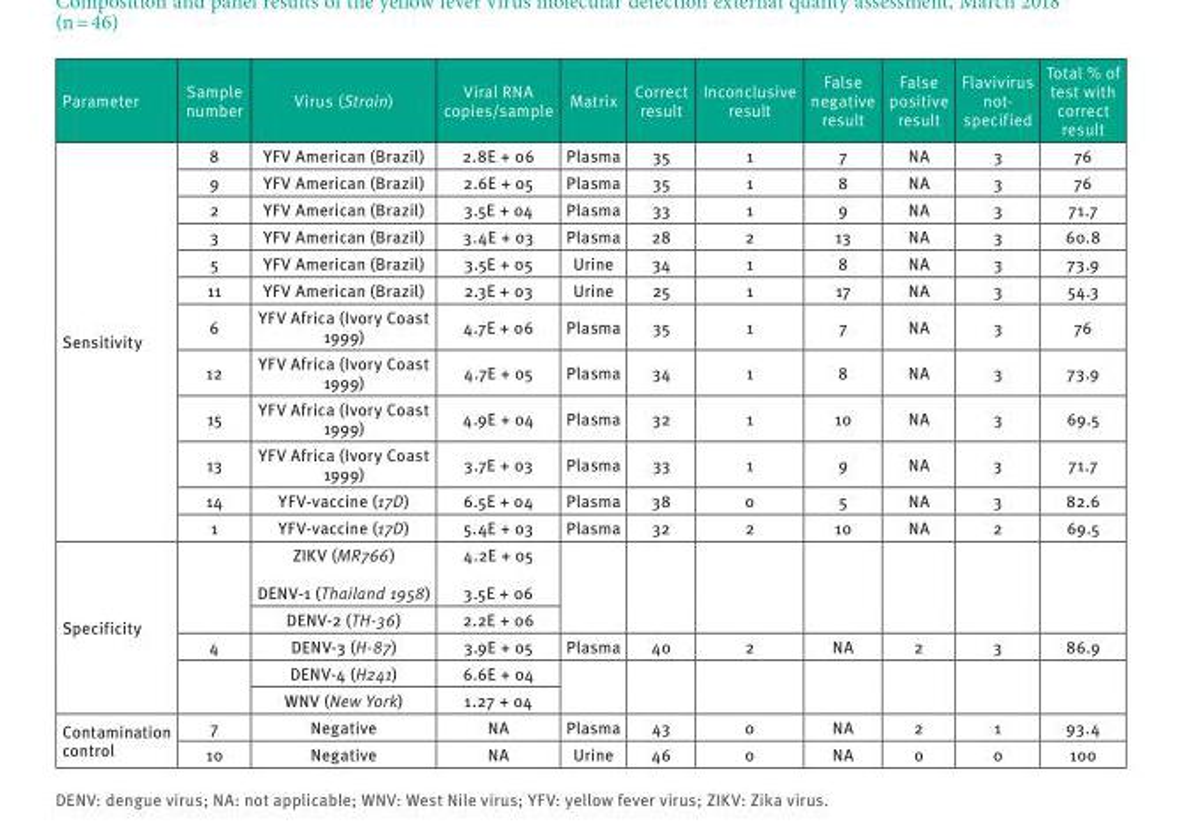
<table><thead><tr><td>Parameter</td><td>Sample number</td><td>Virus (Strain)</td><td>Viral RNA copies/sample</td><td>Matrix</td><td>Correct result</td><td>Inconclusive result</td><td>False negative result</td><td>False positive result</td><td>Flavivirus not- specified</td><td>Total % of test with correct result</td></tr></thead><tbody><tr><td rowspan="12">Sensitivity</td><td>8</td><td>YFV American (Brazil)</td><td>2.8E + 06</td><td>Plasma</td><td>35</td><td>1</td><td>7</td><td>NA</td><td>3</td><td>76</td></tr><tr><td>9</td><td>YFV American (Brazil)</td><td>2.6E + 05</td><td>Plasma</td><td>35</td><td>1</td><td>8</td><td>NA</td><td>3</td><td>76</td></tr><tr><td>2</td><td>YFV American (Brazil)</td><td>3.5E + 04</td><td>Plasma</td><td>33</td><td>1</td><td>9</td><td>NA</td><td>3</td><td>71.7</td></tr><tr><td>3</td><td>YFV American (Brazil)</td><td>3.4E + 03</td><td>Plasma</td><td>28</td><td>2</td><td>13</td><td>NA</td><td>3</td><td>60.8</td></tr><tr><td>5</td><td>YFV American (Brazil)</td><td>3.5E + 05</td><td>Urine</td><td>34</td><td>1</td><td>8</td><td>NA</td><td>3</td><td>73.9</td></tr><tr><td>11</td><td>YFV American (Brazil)</td><td>2.3E + 03</td><td>Urine</td><td>25</td><td>1</td><td>17</td><td>NA</td><td>3</td><td>54.3</td></tr><tr><td>6</td><td>YFV Africa (Ivory Coast 1999)</td><td>4.7E + 06</td><td>Plasma</td><td>35</td><td>1</td><td>7</td><td>NA</td><td>3</td><td>76</td></tr><tr><td>12</td><td>YFV Africa (Ivory Coast 1999)</td><td>4.7E + 05</td><td>Plasma</td><td>34</td><td>1</td><td>8</td><td>NA</td><td>3</td><td>73.9</td></tr><tr><td>15</td><td>YFV Africa (Ivory Coast 1999)</td><td>4.9E + 04</td><td>Plasma</td><td>32</td><td>1</td><td>10</td><td>NA</td><td>3</td><td>69.5</td></tr><tr><td>13</td><td>YFV Africa (Ivory Coast 1999)</td><td>3.7E + 03</td><td>Plasma</td><td>33</td><td>1</td><td>9</td><td>NA</td><td>3</td><td>71.7</td></tr><tr><td>14</td><td>YFV-vaccine (17D)</td><td>6.5E + 04</td><td>Plasma</td><td>38</td><td>0</td><td>5</td><td>NA</td><td>3</td><td>82.6</td></tr><tr><td>1</td><td>YFV-vaccine (17D)</td><td>5.4E + 03</td><td>Plasma</td><td>32</td><td>2</td><td>10</td><td>NA</td><td>2</td><td>69.5</td></tr><tr><td rowspan="5">Specificity</td><td rowspan="2"></td><td>ZIKV (MR766) DENV-1 (Thailand 1958)</td><td>4.2E + 05 3.5E + 06</td><td rowspan="2"></td><td rowspan="2"></td><td rowspan="2"></td><td rowspan="2"></td><td rowspan="2"></td><td rowspan="2"></td><td rowspan="2"></td></tr><tr><td>DENV-2 (TH-36)</td><td>2.2E + 06</td></tr><tr><td>4</td><td>DENV-3 (H-87)</td><td>3.9E + 05</td><td>Plasma</td><td>40</td><td>2</td><td>NA</td><td>2</td><td>3</td><td>86.9</td></tr><tr><td rowspan="2"></td><td>DENV-4 (H241)</td><td>6.6E + 04</td><td rowspan="2"></td><td rowspan="2"></td><td rowspan="2"></td><td rowspan="2"></td><td rowspan="2"></td><td rowspan="2"></td><td rowspan="2"></td></tr><tr><td>WNV (New York)</td><td>1.27 + 04</td></tr><tr><td rowspan="2">Contamination control</td><td>7</td><td>Negative</td><td>NA</td><td>Plasma</td><td>43</td><td>0</td><td>NA</td><td>2</td><td>1</td><td>93.4</td></tr><tr><td>10</td><td>Negative</td><td>NA</td><td>Urine</td><td>46</td><td>0</td><td>NA</td><td>0</td><td>0</td><td>100</td></tr></tbody></table>